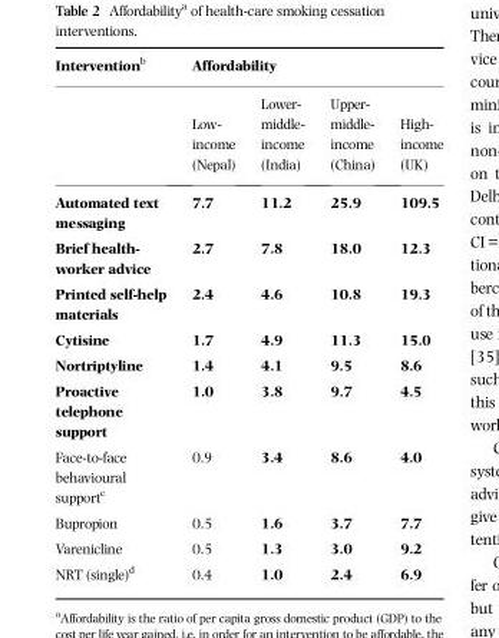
<table><thead><tr><td rowspan="2">Interventionb</td><td colspan="4">Affordability</td></tr><tr><td>Low- income (Nepal)</td><td>Lower- middle- income (India)</td><td>Upper- middle- income (China)</td><td>High- income (UK)</td></tr></thead><tbody><tr><td>Automated text messaging</td><td>7.7</td><td>11.2</td><td>25.9</td><td>109.5</td></tr><tr><td>Brief health- worker advice</td><td>2.7</td><td>7.8</td><td>18.0</td><td>12.3</td></tr><tr><td>Printed self-help materials</td><td>2.4</td><td>4.6</td><td>10.8</td><td>19.3</td></tr><tr><td>Cytisine</td><td>1.7</td><td>4.9</td><td>11.3</td><td>15.0</td></tr><tr><td>Nortriptyline</td><td>1.4</td><td>4.1</td><td>9.5</td><td>8.6</td></tr><tr><td>Proactive telephone support</td><td>1.0</td><td>3.8</td><td>9.7</td><td>4.5</td></tr><tr><td>Face-to-face behavioural support<sup>c</sup></td><td>0.9</td><td>3.4</td><td>8.6</td><td>4.0</td></tr><tr><td>Bupropion</td><td>0.5</td><td>1.6</td><td>3.7</td><td>7.7</td></tr><tr><td>Varenicline</td><td>0.5</td><td>1.3</td><td>3.0</td><td>9.2</td></tr><tr><td>NRT (single)<sup>d</sup></td><td>0.4</td><td>1.0</td><td>2.4</td><td>6.9</td></tr></tbody></table>